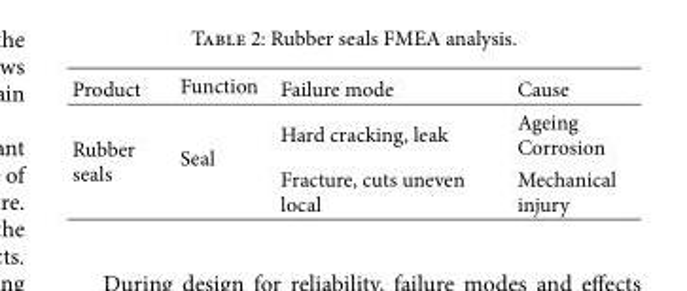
<table><thead><tr><td>Product</td><td>Function</td><td>Failure mode</td><td>Cause</td></tr></thead><tbody><tr><td rowspan="2">Rubber seals</td><td rowspan="2">Seal</td><td>Hard cracking, leak</td><td>Ageing Corrosion</td></tr><tr><td>Fracture, cuts uneven local</td><td>Mechanical injury</td></tr></tbody></table>